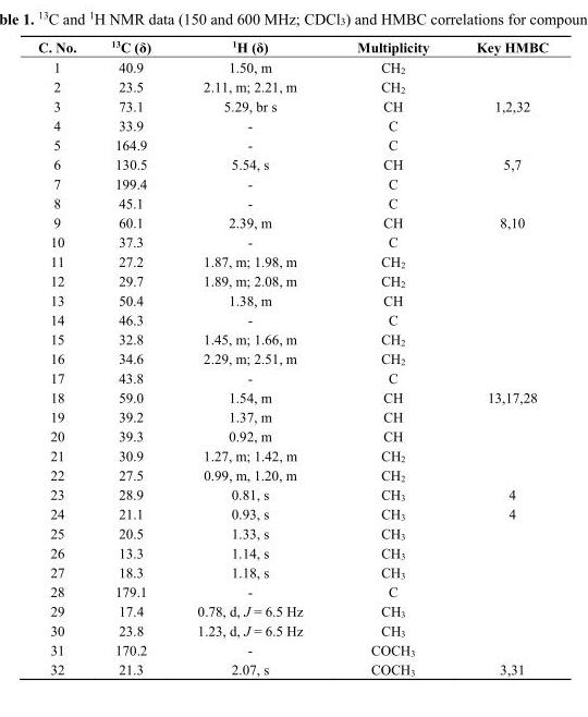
<table><thead><tr><td>C. No.</td><td><sup>13</sup>C (δ)</td><td><sup>1</sup>H (δ)</td><td>Multiplicity</td><td>Key HMBC</td></tr></thead><tbody><tr><td>1</td><td>40.9</td><td>1.50, m</td><td>CH<sub>2</sub></td><td></td></tr><tr><td>2</td><td>23.5</td><td>2.11, m; 2.21, m</td><td>CH<sub>2</sub></td><td></td></tr><tr><td>3</td><td>73.1</td><td>5.29, br s</td><td>CH</td><td>1,2,32</td></tr><tr><td>4</td><td>33.9</td><td>-</td><td>C</td><td></td></tr><tr><td>5</td><td>164.9</td><td>-</td><td>C</td><td></td></tr><tr><td>6</td><td>130.5</td><td>5.54, s</td><td>CH</td><td>5,7</td></tr><tr><td>7</td><td>199.4</td><td>-</td><td>C</td><td></td></tr><tr><td>8</td><td>45.1</td><td>-</td><td>C</td><td></td></tr><tr><td>9</td><td>60.1</td><td>2.39, m</td><td>CH</td><td>8,10</td></tr><tr><td>10</td><td>37.3</td><td>-</td><td>C</td><td></td></tr><tr><td>11</td><td>27.2</td><td>1.87, m; 1.98, m</td><td>CH<sub>2</sub></td><td></td></tr><tr><td>12</td><td>29.7</td><td>1.89, m; 2.08, m</td><td>CH<sub>2</sub></td><td></td></tr><tr><td>13</td><td>50.4</td><td>1.38, m</td><td>CH</td><td></td></tr><tr><td>14</td><td>46.3</td><td>-</td><td>C</td><td></td></tr><tr><td>15</td><td>32.8</td><td>1.45, m; 1.66, m</td><td>CH<sub>2</sub></td><td></td></tr><tr><td>16</td><td>34.6</td><td>2.29, m; 2.51, m</td><td>CH<sub>2</sub></td><td></td></tr><tr><td>17</td><td>43.8</td><td>-</td><td>C</td><td></td></tr><tr><td>18</td><td>59.0</td><td>1.54, m</td><td>CH</td><td>13,17,28</td></tr><tr><td>19</td><td>39.2</td><td>1.37, m</td><td>CH</td><td></td></tr><tr><td>20</td><td>39.3</td><td>0.92, m</td><td>CH</td><td></td></tr><tr><td>21</td><td>30.9</td><td>1.27, m; 1.42, m</td><td>CH<sub>2</sub></td><td></td></tr><tr><td>22</td><td>27.5</td><td>0.99, m, 1.20, m</td><td>CH<sub>2</sub></td><td></td></tr><tr><td>23</td><td>28.9</td><td>0.81, s</td><td>CH<sub>3</sub></td><td>4</td></tr><tr><td>24</td><td>21.1</td><td>0.93, s</td><td>CH<sub>3</sub></td><td>4</td></tr><tr><td>25</td><td>20.5</td><td>1.33, s</td><td>CH<sub>3</sub></td><td></td></tr><tr><td>26</td><td>13.3</td><td>1.14, s</td><td>CH<sub>3</sub></td><td></td></tr><tr><td>27</td><td>18.3</td><td>1.18, s</td><td>CH<sub>3</sub></td><td></td></tr><tr><td>28</td><td>179.1</td><td>-</td><td>C</td><td></td></tr><tr><td>29</td><td>17.4</td><td>0.78, d, J = 6.5 Hz</td><td>CH<sub>3</sub></td><td></td></tr><tr><td>30</td><td>23.8</td><td>1.23, d, J = 6.5 Hz</td><td>CH<sub>3</sub></td><td></td></tr><tr><td>31</td><td>170.2</td><td>-</td><td>COCH<sub>3</sub></td><td></td></tr><tr><td>32</td><td>21.3</td><td>2.07, s</td><td>COCH<sub>3</sub></td><td>3,31</td></tr></tbody></table>